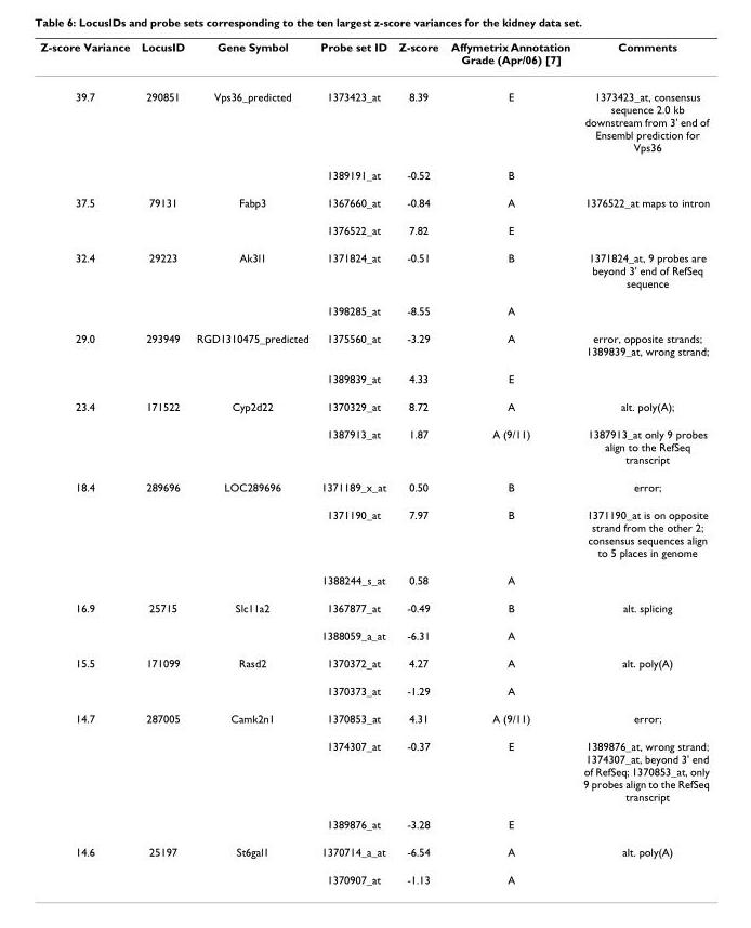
<table><thead><tr><td>Z-score Variance</td><td>LocusID</td><td>Gene Symbol</td><td>Probe set ID</td><td>Z-score</td><td>Affymetrix Annotation Grade (Apr/06) [7]</td><td>Comments</td></tr></thead><tbody><tr><td rowspan="2">39.7</td><td>290851</td><td>Vps36_predicted</td><td>1373423_at</td><td>8.39</td><td>E</td><td>1373423_at, consensus sequence 2.0 kb downstream from 3&#x27; end of Ensembl prediction for Vps36</td></tr><tr><td></td><td></td><td>1389191_at</td><td>-0.52</td><td>B</td><td></td></tr><tr><td rowspan="2">37.5</td><td>79131</td><td>Fabp3</td><td>1367660_at</td><td>-0.84</td><td>A</td><td>1376522_at maps to intron</td></tr><tr><td></td><td></td><td>1376522_at</td><td>7.82</td><td>E</td><td></td></tr><tr><td rowspan="2">32.4</td><td>29223</td><td>Ak3l1</td><td>1371824_at</td><td>-0.51</td><td>B</td><td>1371824_at, 9 probes are beyond 3&#x27; end of RefSeq sequence</td></tr><tr><td></td><td></td><td>1398285_at</td><td>-8.55</td><td>A</td><td></td></tr><tr><td rowspan="2">29.0</td><td>293949</td><td>RGD1310475_predicted</td><td>1375560_at</td><td>-3.29</td><td>A</td><td>error, opposite strands; 1389839_at, wrong strand;</td></tr><tr><td></td><td></td><td>1389839_at</td><td>4.33</td><td>E</td><td></td></tr><tr><td rowspan="2">23.4</td><td>171522</td><td>Cyp2d22</td><td>1370329_at</td><td>8.72</td><td>A</td><td>alt. poly(A);</td></tr><tr><td></td><td></td><td>1387913_at</td><td>1.87</td><td>A (9/11)</td><td>1387913_at only 9 probes align to the RefSeq transcript</td></tr><tr><td rowspan="3">18.4</td><td>289696</td><td>LOC289696</td><td>1371189_x_at</td><td>0.50</td><td>B</td><td>error;</td></tr><tr><td></td><td></td><td>1371190_at</td><td>7.97</td><td>B</td><td>1371190_at is on opposite strand from the other 2; consensus sequences align to 5 places in genome</td></tr><tr><td></td><td></td><td>1388244_s_at</td><td>0.58</td><td>A</td><td></td></tr><tr><td rowspan="2">16.9</td><td>25715</td><td>Slc11a2</td><td>1367877_at</td><td>-0.49</td><td>B</td><td>alt. splicing</td></tr><tr><td></td><td></td><td>1388059_a_at</td><td>-6.31</td><td>A</td><td></td></tr><tr><td rowspan="2">15.5</td><td>171099</td><td>Rasd2</td><td>1370372_at</td><td>4.27</td><td>A</td><td>alt. poly(A)</td></tr><tr><td></td><td></td><td>1370373_at</td><td>-1.29</td><td>A</td><td></td></tr><tr><td rowspan="3">14.7</td><td>287005</td><td>Camk2n1</td><td>1370853_at</td><td>4.31</td><td>A (9/11)</td><td>error;</td></tr><tr><td></td><td></td><td>1374307_at</td><td>-0.37</td><td>E</td><td>1389876_at, wrong strand; 1374307_at, beyond 3&#x27; end of RefSeq; 1370853_at, only 9 probes align to the RefSeq transcript</td></tr><tr><td></td><td></td><td>1389876_at</td><td>-3.28</td><td>E</td><td></td></tr><tr><td rowspan="2">14.6</td><td>25197</td><td>St6gal1</td><td>1370714_a_at</td><td>-6.54</td><td>A</td><td>alt. poly(A)</td></tr><tr><td></td><td></td><td>1370907_at</td><td>-1.13</td><td>A</td><td></td></tr></tbody></table>